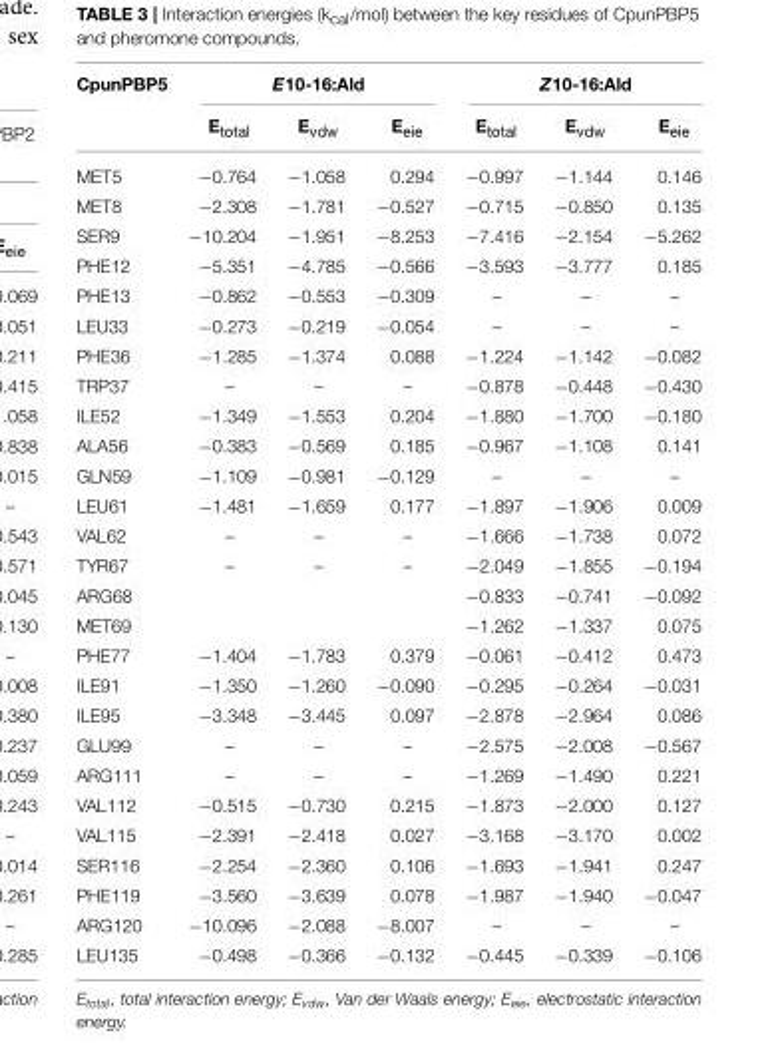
<table><thead><tr><td rowspan="2">CpunPBP5</td><td colspan="3">E10-16:Ald</td><td colspan="3">Z10-16:Ald</td></tr><tr><td>E<sub>total</sub></td><td>E<sub>vdw</sub></td><td>E<sub>eie</sub></td><td>E<sub>total</sub></td><td>E<sub>vdw</sub></td><td>E<sub>eie</sub></td></tr></thead><tbody><tr><td>MET5</td><td>−0.764</td><td>−1.058</td><td>0.294</td><td>−0.997</td><td>−1.144</td><td>0.146</td></tr><tr><td>MET8</td><td>−2.308</td><td>−1.781</td><td>−0.527</td><td>−0.715</td><td>−0.850</td><td>0.135</td></tr><tr><td>SER9</td><td>−10.204</td><td>−1.951</td><td>−8.253</td><td>−7.416</td><td>−2.154</td><td>−5.262</td></tr><tr><td>PHE12</td><td>−5.351</td><td>−4.785</td><td>−0.566</td><td>−3.593</td><td>−3.777</td><td>0.185</td></tr><tr><td>PHE13</td><td>−0.862</td><td>−0.553</td><td>−0.309</td><td>–</td><td>–</td><td>–</td></tr><tr><td>LEU33</td><td>−0.273</td><td>−0.219</td><td>−0.054</td><td>–</td><td>–</td><td>–</td></tr><tr><td>PHE36</td><td>−1.285</td><td>−1.374</td><td>0.088</td><td>−1.224</td><td>−1.142</td><td>−0.082</td></tr><tr><td>TRP37</td><td>–</td><td>–</td><td>–</td><td>−0.878</td><td>−0.448</td><td>−0.430</td></tr><tr><td>ILE52</td><td>−1.349</td><td>−1.553</td><td>0.204</td><td>−1.880</td><td>−1.700</td><td>−0.180</td></tr><tr><td>ALA56</td><td>−0.383</td><td>−0.569</td><td>0.185</td><td>−0.967</td><td>−1.108</td><td>0.141</td></tr><tr><td>GLN59</td><td>−1.109</td><td>−0.981</td><td>−0.129</td><td>–</td><td>–</td><td>–</td></tr><tr><td>LEU61</td><td>−1.481</td><td>−1.659</td><td>0.177</td><td>−1.897</td><td>−1.906</td><td>0.009</td></tr><tr><td>VAL62</td><td>–</td><td>–</td><td>–</td><td>−1.666</td><td>−1.738</td><td>0.072</td></tr><tr><td>TYR67</td><td>–</td><td>–</td><td>–</td><td>−2.049</td><td>−1.855</td><td>−0.194</td></tr><tr><td>ARG68</td><td></td><td></td><td></td><td>−0.833</td><td>−0.741</td><td>−0.092</td></tr><tr><td>MET69</td><td></td><td></td><td></td><td>−1.262</td><td>−1.337</td><td>0.075</td></tr><tr><td>PHE77</td><td>−1.404</td><td>−1.783</td><td>0.379</td><td>−0.061</td><td>−0.412</td><td>0.473</td></tr><tr><td>ILE91</td><td>−1.350</td><td>−1.260</td><td>−0.090</td><td>−0.295</td><td>−0.264</td><td>−0.031</td></tr><tr><td>ILE95</td><td>−3.348</td><td>−3.445</td><td>0.097</td><td>−2.878</td><td>−2.964</td><td>0.086</td></tr><tr><td>GLU99</td><td>–</td><td>–</td><td>–</td><td>−2.575</td><td>−2.008</td><td>−0.567</td></tr><tr><td>ARG111</td><td>–</td><td>–</td><td>–</td><td>−1.269</td><td>−1.490</td><td>0.221</td></tr><tr><td>VAL112</td><td>−0.515</td><td>−0.730</td><td>0.215</td><td>−1.873</td><td>−2.000</td><td>0.127</td></tr><tr><td>VAL115</td><td>−2.391</td><td>−2.418</td><td>0.027</td><td>−3.168</td><td>−3.170</td><td>0.002</td></tr><tr><td>SER116</td><td>−2.254</td><td>−2.360</td><td>0.106</td><td>−1.693</td><td>−1.941</td><td>0.247</td></tr><tr><td>PHE119</td><td>−3.560</td><td>−3.639</td><td>0.078</td><td>−1.987</td><td>−1.940</td><td>−0.047</td></tr><tr><td>ARG120</td><td>−10.096</td><td>−2.088</td><td>−8.007</td><td>–</td><td>–</td><td>–</td></tr><tr><td>LEU135</td><td>−0.498</td><td>−0.366</td><td>−0.132</td><td>−0.445</td><td>−0.339</td><td>−0.106</td></tr></tbody></table>